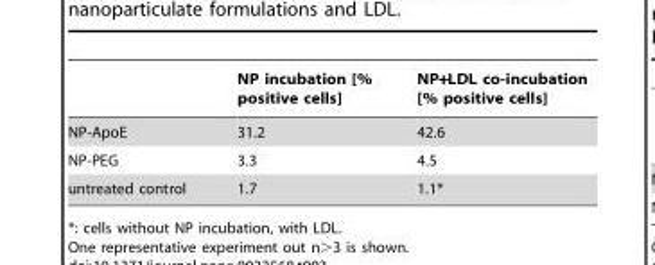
<table><thead><tr><td></td><td>NP incubation [% positive cells]</td><td>NP+LDL co-incubation [% positive cells]</td></tr></thead><tbody><tr><td>NP-ApoE</td><td>31.2</td><td>42.6</td></tr><tr><td>NP-PEG</td><td>3.3</td><td>4.5</td></tr><tr><td>untreated control</td><td>1.7</td><td>1.1*</td></tr></tbody></table>